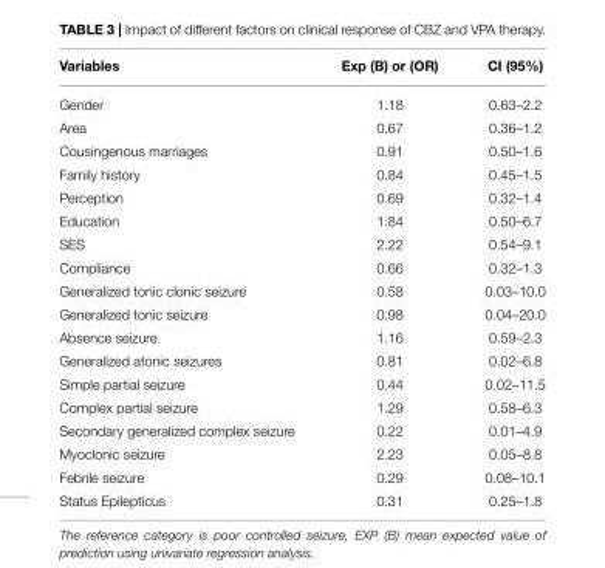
<table><thead><tr><td>Variables</td><td>Exp (B) or (OR)</td><td>CI (95%)</td></tr></thead><tbody><tr><td>Gender</td><td>1.18</td><td>0.63–2.2</td></tr><tr><td>Area</td><td>0.67</td><td>0.36–1.2</td></tr><tr><td>Cousingenous marriages</td><td>0.91</td><td>0.50–1.6</td></tr><tr><td>Family history</td><td>0.84</td><td>0.45–1.5</td></tr><tr><td>Perception</td><td>0.69</td><td>0.32–1.4</td></tr><tr><td>Education</td><td>1.84</td><td>0.50–6.7</td></tr><tr><td>SES</td><td>2.22</td><td>0.54–9.1</td></tr><tr><td>Compliance</td><td>0.66</td><td>0.32–1.3</td></tr><tr><td>Generalized tonic clonic seizure</td><td>0.58</td><td>0.03–10.0</td></tr><tr><td>Generalized tonic seizure</td><td>0.98</td><td>0.04–20.0</td></tr><tr><td>Absence seizure</td><td>1.16</td><td>0.59–2.3</td></tr><tr><td>Generalized atonic seizures</td><td>0.81</td><td>0.02–6.8</td></tr><tr><td>Simple partial seizure</td><td>0.44</td><td>0.02–11.5</td></tr><tr><td>Complex partial seizure</td><td>1.29</td><td>0.58–6.3</td></tr><tr><td>Secondary generalized complex seizure</td><td>0.22</td><td>0.01–4.9</td></tr><tr><td>Myoclonic seizure</td><td>2.23</td><td>0.05–8.8</td></tr><tr><td>Febrile seizure</td><td>0.29</td><td>0.08–10.1</td></tr><tr><td>Status Epilepticus</td><td>0.31</td><td>0.25–1.8</td></tr></tbody></table>